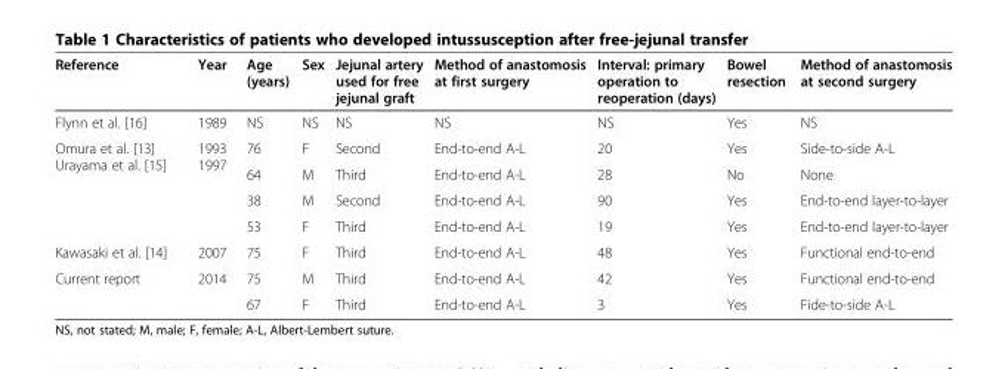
<table><thead><tr><td>Reference</td><td>Year</td><td>Age (years)</td><td>Sex</td><td>Jejunal artery used for free jejunal graft</td><td>Method of anastomosis at first surgery</td><td>Interval: primary operation to reoperation (days)</td><td>Bowel resection</td><td>Method of anastomosis at second surgery</td></tr></thead><tbody><tr><td>Flynn et al. [16]</td><td>1989</td><td>NS</td><td>NS</td><td>NS</td><td>NS</td><td>NS</td><td>Yes</td><td>NS</td></tr><tr><td rowspan="4">Omura et al. [13] Urayama et al. [15]</td><td rowspan="4">1993 1997</td><td>76</td><td>F</td><td>Second</td><td>End-to-end A-L</td><td>20</td><td>Yes</td><td>Side-to-side A-L</td></tr><tr><td>64</td><td>M</td><td>Third</td><td>End-to-end A-L</td><td>28</td><td>No</td><td>None</td></tr><tr><td>38</td><td>M</td><td>Second</td><td>End-to-end A-L</td><td>90</td><td>Yes</td><td>End-to-end layer-to-layer</td></tr><tr><td>53</td><td>F</td><td>Third</td><td>End-to-end A-L</td><td>19</td><td>Yes</td><td>End-to-end layer-to-layer</td></tr><tr><td>Kawasaki et al. [14]</td><td>2007</td><td>75</td><td>F</td><td>Third</td><td>End-to-end A-L</td><td>48</td><td>Yes</td><td>Functional end-to-end</td></tr><tr><td rowspan="2">Current report</td><td rowspan="2">2014</td><td>75</td><td>M</td><td>Third</td><td>End-to-end A-L</td><td>42</td><td>Yes</td><td>Functional end-to-end</td></tr><tr><td>67</td><td>F</td><td>Third</td><td>End-to-end A-L</td><td>3</td><td>Yes</td><td>Fide-to-side A-L</td></tr></tbody></table>